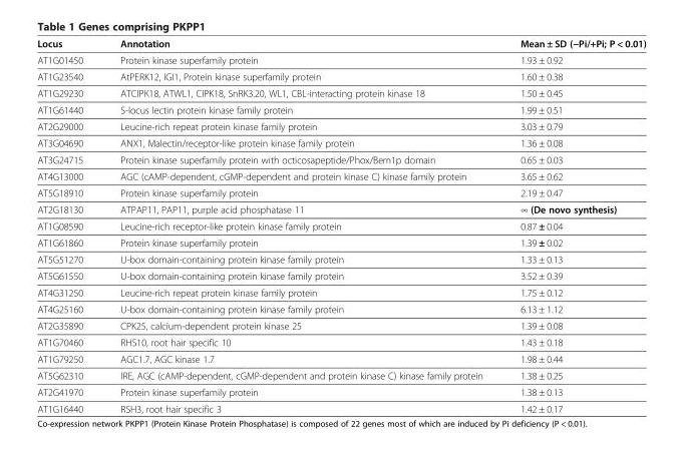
<table><thead><tr><td>Locus</td><td>Annotation</td><td>Mean ± SD (−Pi/+Pi; P &lt; 0.01)</td></tr></thead><tbody><tr><td>AT1G01450</td><td>Protein kinase superfamily protein</td><td>1.93 ± 0.92</td></tr><tr><td>AT1G23540</td><td>AtPERK12, IGI1, Protein kinase superfamily protein</td><td>1.60 ± 0.38</td></tr><tr><td>AT1G29230</td><td>ATCIPK18, ATWL1, CIPK18, SnRK3.20, WL1, CBL-interacting protein kinase 18</td><td>1.50 ± 0.45</td></tr><tr><td>AT1G61440</td><td>S-locus lectin protein kinase family protein</td><td>1.99 ± 0.51</td></tr><tr><td>AT2G29000</td><td>Leucine-rich repeat protein kinase family protein</td><td>3.03 ± 0.79</td></tr><tr><td>AT3G04690</td><td>ANX1, Malectin/receptor-like protein kinase family protein</td><td>1.36 ± 0.08</td></tr><tr><td>AT3G24715</td><td>Protein kinase superfamily protein with octicosapeptide/Phox/Bem1p domain</td><td>0.65 ± 0.03</td></tr><tr><td>AT4G13000</td><td>AGC (cAMP-dependent, cGMP-dependent and protein kinase C) kinase family protein</td><td>3.65 ± 0.62</td></tr><tr><td>AT5G18910</td><td>Protein kinase superfamily protein</td><td>2.19 ± 0.47</td></tr><tr><td>AT2G18130</td><td>ATPAP11, PAP11, purple acid phosphatase 11</td><td>∞ (De novo synthesis)</td></tr><tr><td>AT1G08590</td><td>Leucine-rich receptor-like protein kinase family protein</td><td>0.87 ± 0.04</td></tr><tr><td>AT1G61860</td><td>Protein kinase superfamily protein</td><td>1.39 ± 0.02</td></tr><tr><td>AT5G51270</td><td>U-box domain-containing protein kinase family protein</td><td>1.33 ± 0.13</td></tr><tr><td>AT5G61550</td><td>U-box domain-containing protein kinase family protein</td><td>3.52 ± 0.39</td></tr><tr><td>AT4G31250</td><td>Leucine-rich repeat protein kinase family protein</td><td>1.75 ± 0.12</td></tr><tr><td>AT4G25160</td><td>U-box domain-containing protein kinase family protein</td><td>6.13 ± 1.12</td></tr><tr><td>AT2G35890</td><td>CPK25, calcium-dependent protein kinase 25</td><td>1.39 ± 0.08</td></tr><tr><td>AT1G70460</td><td>RHS10, root hair specific 10</td><td>1.43 ± 0.18</td></tr><tr><td>AT1G79250</td><td>AGC1.7, AGC kinase 1.7</td><td>1.98 ± 0.44</td></tr><tr><td>AT5G62310</td><td>IRE, AGC (cAMP-dependent, cGMP-dependent and protein kinase C) kinase family protein</td><td>1.38 ± 0.25</td></tr><tr><td>AT2G41970</td><td>Protein kinase superfamily protein</td><td>1.38 ± 0.13</td></tr><tr><td>AT1G16440</td><td>RSH3, root hair specific 3</td><td>1.42 ± 0.17</td></tr></tbody></table>